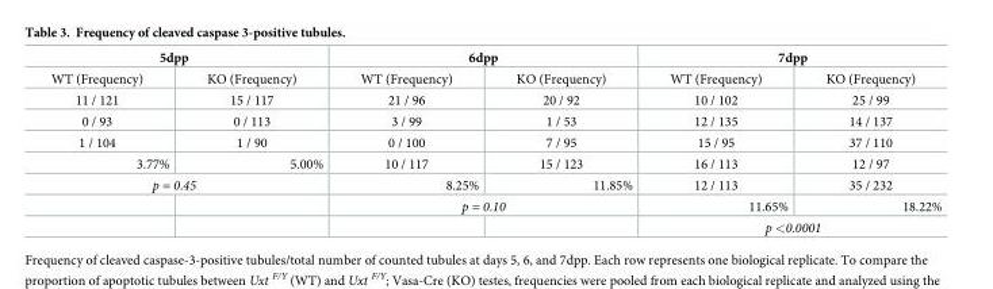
<table><thead><tr><td colspan="2">5dpp</td><td colspan="2">6dpp</td><td colspan="2">7dpp</td></tr><tr><td>WT (Frequency)</td><td>KO (Frequency)</td><td>WT (Frequency)</td><td>KO (Frequency)</td><td>WT (Frequency)</td><td>KO (Frequency)</td></tr></thead><tbody><tr><td>11 / 121</td><td>15 / 117</td><td>21 / 96</td><td>20 / 92</td><td>10 / 102</td><td>25 / 99</td></tr><tr><td>0 / 93</td><td>0 / 113</td><td>3 / 99</td><td>1 / 53</td><td>12 / 135</td><td>14 / 137</td></tr><tr><td>1 / 104</td><td>1 / 90</td><td>0 / 100</td><td>7 / 95</td><td>15 / 95</td><td>37 / 110</td></tr><tr><td>3.77%</td><td>5.00%</td><td>10 / 117</td><td>15 / 123</td><td>16 / 113</td><td>12 / 97</td></tr><tr><td colspan="2">p = 0.45</td><td>8.25%</td><td>11.85%</td><td>12 / 113</td><td>35 / 232</td></tr><tr><td></td><td></td><td colspan="2">p = 0.10</td><td>11.65%</td><td>18.22%</td></tr><tr><td></td><td></td><td></td><td></td><td colspan="2">p &lt;0.0001</td></tr></tbody></table>